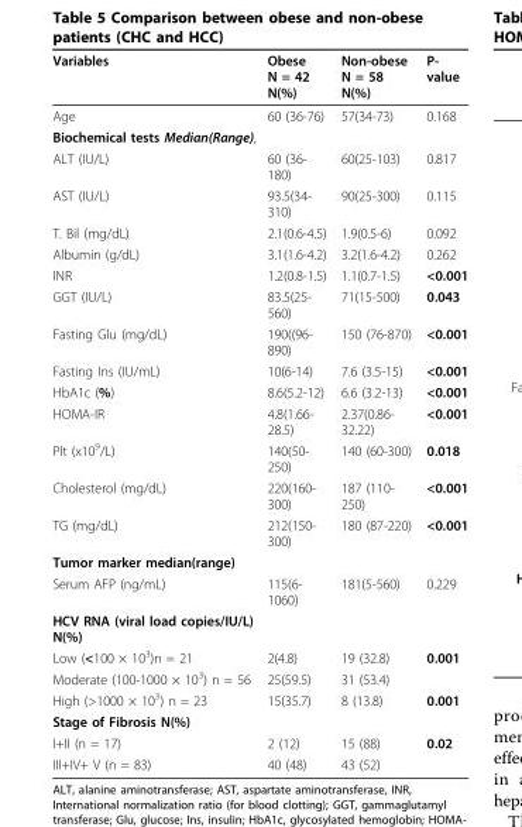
<table><thead><tr><td>Variables</td><td>Obese N = 42 N(%)</td><td>Non-obese N = 58 N(%)</td><td>P- value</td></tr></thead><tbody><tr><td>Age</td><td>60 (36-76)</td><td>57(34-73)</td><td>0.168</td></tr><tr><td colspan="4">Biochemical tests Median(Range),</td></tr><tr><td>ALT (IU/L)</td><td>60 (36- 180)</td><td>60(25-103)</td><td>0.817</td></tr><tr><td>AST (IU/L)</td><td>93.5(34- 310)</td><td>90(25-300)</td><td>0.115</td></tr><tr><td>T. Bil (mg/dL)</td><td>2.1(0.6-4.5)</td><td>1.9(0.5-6)</td><td>0.092</td></tr><tr><td>Albumin (g/dL)</td><td>3.1(1.6-4.2)</td><td>3.2(1.6-4.2)</td><td>0.262</td></tr><tr><td>INR</td><td>1.2(0.8-1.5)</td><td>1.1(0.7-1.5)</td><td>&lt;0.001</td></tr><tr><td>GGT (IU/L)</td><td>83.5(25- 560)</td><td>71(15-500)</td><td>0.043</td></tr><tr><td>Fasting Glu (mg/dL)</td><td>190((96- 890)</td><td>150 (76-870)</td><td>&lt;0.001</td></tr><tr><td>Fasting Ins (IU/mL)</td><td>10(6-14)</td><td>7.6 (3.5-15)</td><td>&lt;0.001</td></tr><tr><td>HbA1c (%)</td><td>8.6(5.2-12)</td><td>6.6 (3.2-13)</td><td>&lt;0.001</td></tr><tr><td>HOMA-IR</td><td>4.8(1.66- 28.5)</td><td>2.37(0.86- 32.22)</td><td>&lt;0.001</td></tr><tr><td>Plt (x10<sup>9</sup>/L)</td><td>140(50- 250)</td><td>140 (60-300)</td><td>0.018</td></tr><tr><td>Cholesterol (mg/dL)</td><td>220(160- 300)</td><td>187 (110- 250)</td><td>&lt;0.001</td></tr><tr><td>TG (mg/dL)</td><td>212(150- 300)</td><td>180 (87-220)</td><td>&lt;0.001</td></tr><tr><td colspan="4">Tumor marker median(range)</td></tr><tr><td>Serum AFP (ng/mL)</td><td>115(6- 1060)</td><td>181(5-560)</td><td>0.229</td></tr><tr><td colspan="4">HCV RNA (viral load copies/IU/L) N(%)</td></tr><tr><td>Low (&lt;100 × 10<sup>3</sup>)n = 21</td><td>2(4.8)</td><td>19 (32.8)</td><td>0.001</td></tr><tr><td>Moderate (100-1000 × 10<sup>3</sup>) n = 56</td><td>25(59.5)</td><td>31 (53.4)</td><td></td></tr><tr><td>High (&gt;1000 × 10<sup>3</sup>) n = 23</td><td>15(35.7)</td><td>8 (13.8)</td><td>0.001</td></tr><tr><td colspan="4">Stage of Fibrosis N(%)</td></tr><tr><td>I+II (n = 17)</td><td>2 (12)</td><td>15 (88)</td><td>0.02</td></tr><tr><td>III+IV+ V (n = 83)</td><td>40 (48)</td><td>43 (52)</td><td></td></tr></tbody></table>